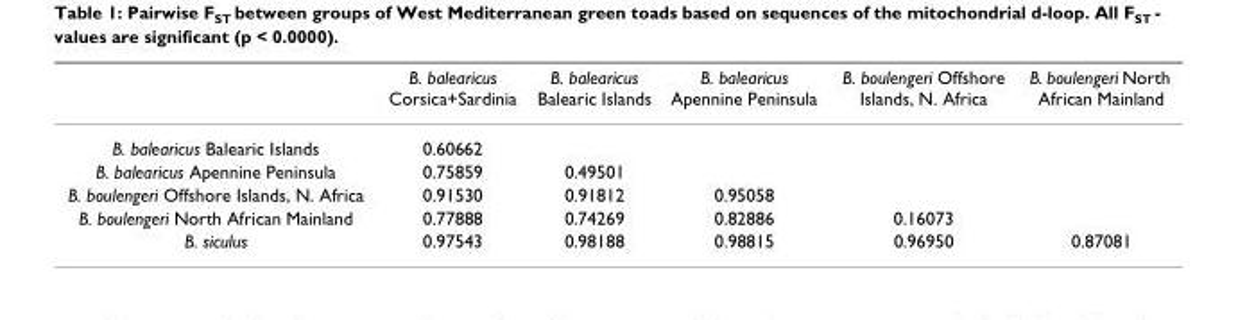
<table><thead><tr><td></td><td>B. balearicus Corsica+Sardinia</td><td>B. balearicus Balearic Islands</td><td>B. balearicus Apennine Peninsula</td><td>B. boulengeri Offshore Islands, N. Africa</td><td>B. boulengeri North African Mainland</td></tr></thead><tbody><tr><td>B. balearicus Balearic Islands</td><td>0.60662</td><td></td><td></td><td></td><td></td></tr><tr><td>B. balearicus Apennine Peninsula</td><td>0.75859</td><td>0.49501</td><td></td><td></td><td></td></tr><tr><td>B. boulengeri Offshore Islands, N. Africa</td><td>0.91530</td><td>0.91812</td><td>0.95058</td><td></td><td></td></tr><tr><td>B. boulengeri North African Mainland</td><td>0.77888</td><td>0.74269</td><td>0.82886</td><td>0.16073</td><td></td></tr><tr><td>B. siculus</td><td>0.97543</td><td>0.98188</td><td>0.98815</td><td>0.96950</td><td>0.87081</td></tr></tbody></table>